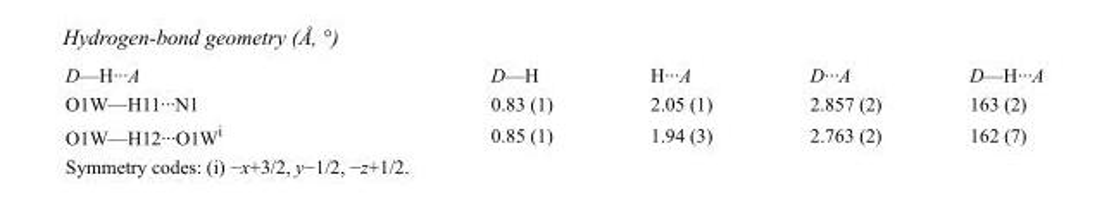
<table><tbody><tr><td>D—H···A</td><td>D—H</td><td>H···A</td><td>D···A</td><td>D—H···A</td></tr><tr><td>O1W—H11···N1</td><td>0.83 (1)</td><td>2.05 (1)</td><td>2.857 (2)</td><td>163 (2)</td></tr><tr><td>O1W—H12···O1W<sup>i</sup></td><td>0.85 (1)</td><td>1.94 (3)</td><td>2.763 (2)</td><td>162 (7)</td></tr></tbody></table>